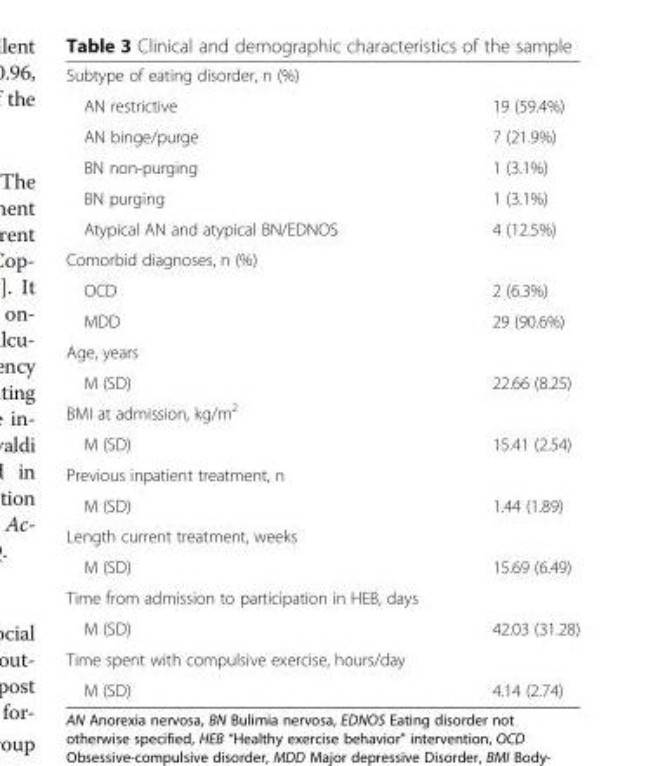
<table><tbody><tr><td colspan="2">Subtype of eating disorder, n (%)</td></tr><tr><td>AN restrictive</td><td>19 (59.4%)</td></tr><tr><td>AN binge/purge</td><td>7 (21.9%)</td></tr><tr><td>BN non-purging</td><td>1 (3.1%)</td></tr><tr><td>BN purging</td><td>1 (3.1%)</td></tr><tr><td>Atypical AN and atypical BN/EDNOS</td><td>4 (12.5%)</td></tr><tr><td colspan="2">Comorbid diagnoses, n (%)</td></tr><tr><td>OCD</td><td>2 (6.3%)</td></tr><tr><td>MDD</td><td>29 (90.6%)</td></tr><tr><td colspan="2">Age, years</td></tr><tr><td>M (SD)</td><td>22.66 (8.25)</td></tr><tr><td colspan="2">BMI at admission, kg/m<sup>2</sup></td></tr><tr><td>M (SD)</td><td>15.41 (2.54)</td></tr><tr><td colspan="2">Previous inpatient treatment, n</td></tr><tr><td>M (SD)</td><td>1.44 (1.89)</td></tr><tr><td colspan="2">Length current treatment, weeks</td></tr><tr><td>M (SD)</td><td>15.69 (6.49)</td></tr><tr><td colspan="2">Time from admission to participation in HEB, days</td></tr><tr><td>M (SD)</td><td>42.03 (31.28)</td></tr><tr><td colspan="2">Time spent with compulsive exercise, hours/day</td></tr><tr><td>M (SD)</td><td>4.14 (2.74)</td></tr></tbody></table>